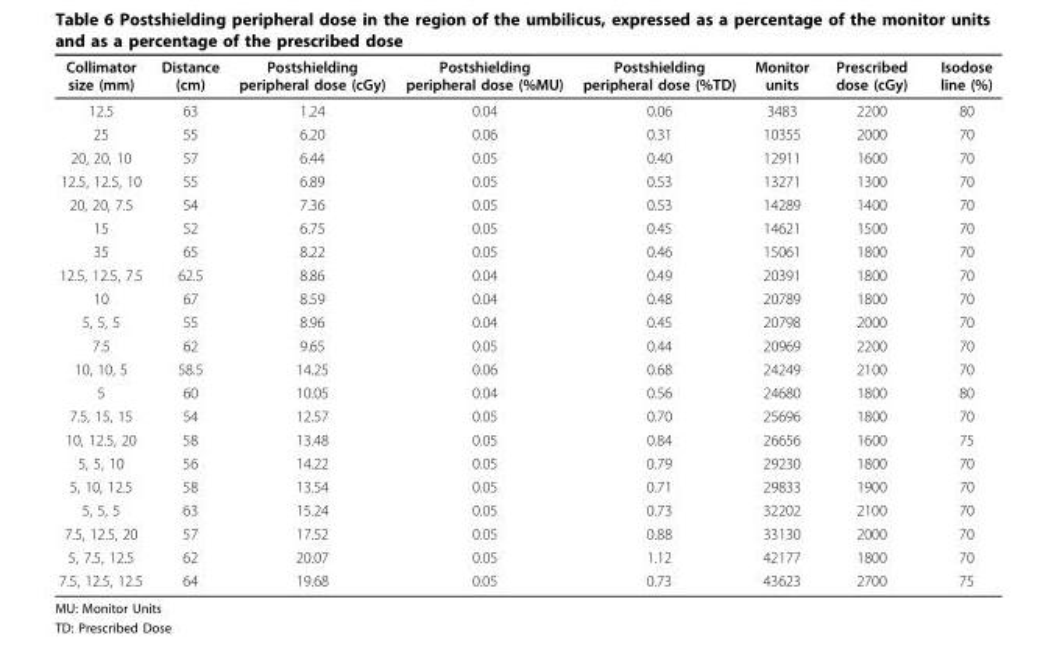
<table><thead><tr><td>Collimator size (mm)</td><td>Distance (cm)</td><td>Postshielding peripheral dose (cGy)</td><td>Postshielding peripheral dose (%MU)</td><td>Postshielding peripheral dose (%TD)</td><td>Monitor units</td><td>Prescribed dose (cGy)</td><td>Isodose line (%)</td></tr></thead><tbody><tr><td>12.5</td><td>63</td><td>1.24</td><td>0.04</td><td>0.06</td><td>3483</td><td>2200</td><td>80</td></tr><tr><td>25</td><td>55</td><td>6.20</td><td>0.06</td><td>0.31</td><td>10355</td><td>2000</td><td>70</td></tr><tr><td>20, 20, 10</td><td>57</td><td>6.44</td><td>0.05</td><td>0.40</td><td>12911</td><td>1600</td><td>70</td></tr><tr><td>12.5, 12.5, 10</td><td>55</td><td>6.89</td><td>0.05</td><td>0.53</td><td>13271</td><td>1300</td><td>70</td></tr><tr><td>20, 20, 7.5</td><td>54</td><td>7.36</td><td>0.05</td><td>0.53</td><td>14289</td><td>1400</td><td>70</td></tr><tr><td>15</td><td>52</td><td>6.75</td><td>0.05</td><td>0.45</td><td>14621</td><td>1500</td><td>70</td></tr><tr><td>35</td><td>65</td><td>8.22</td><td>0.05</td><td>0.46</td><td>15061</td><td>1800</td><td>70</td></tr><tr><td>12.5, 12.5, 7.5</td><td>62.5</td><td>8.86</td><td>0.04</td><td>0.49</td><td>20391</td><td>1800</td><td>70</td></tr><tr><td>10</td><td>67</td><td>8.59</td><td>0.04</td><td>0.48</td><td>20789</td><td>1800</td><td>70</td></tr><tr><td>5, 5, 5</td><td>55</td><td>8.96</td><td>0.04</td><td>0.45</td><td>20798</td><td>2000</td><td>70</td></tr><tr><td>7.5</td><td>62</td><td>9.65</td><td>0.05</td><td>0.44</td><td>20969</td><td>2200</td><td>70</td></tr><tr><td>10, 10, 5</td><td>58.5</td><td>14.25</td><td>0.06</td><td>0.68</td><td>24249</td><td>2100</td><td>70</td></tr><tr><td>5</td><td>60</td><td>10.05</td><td>0.04</td><td>0.56</td><td>24680</td><td>1800</td><td>80</td></tr><tr><td>7.5, 15, 15</td><td>54</td><td>12.57</td><td>0.05</td><td>0.70</td><td>25696</td><td>1800</td><td>70</td></tr><tr><td>10, 12.5, 20</td><td>58</td><td>13.48</td><td>0.05</td><td>0.84</td><td>26656</td><td>1600</td><td>75</td></tr><tr><td>5, 5, 10</td><td>56</td><td>14.22</td><td>0.05</td><td>0.79</td><td>29230</td><td>1800</td><td>70</td></tr><tr><td>5, 10, 12.5</td><td>58</td><td>13.54</td><td>0.05</td><td>0.71</td><td>29833</td><td>1900</td><td>70</td></tr><tr><td>5, 5, 5</td><td>63</td><td>15.24</td><td>0.05</td><td>0.73</td><td>32202</td><td>2100</td><td>70</td></tr><tr><td>7.5, 12.5, 20</td><td>57</td><td>17.52</td><td>0.05</td><td>0.88</td><td>33130</td><td>2000</td><td>70</td></tr><tr><td>5, 7.5, 12.5</td><td>62</td><td>20.07</td><td>0.05</td><td>1.12</td><td>42177</td><td>1800</td><td>70</td></tr><tr><td>7.5, 12.5, 12.5</td><td>64</td><td>19.68</td><td>0.05</td><td>0.73</td><td>43623</td><td>2700</td><td>75</td></tr></tbody></table>